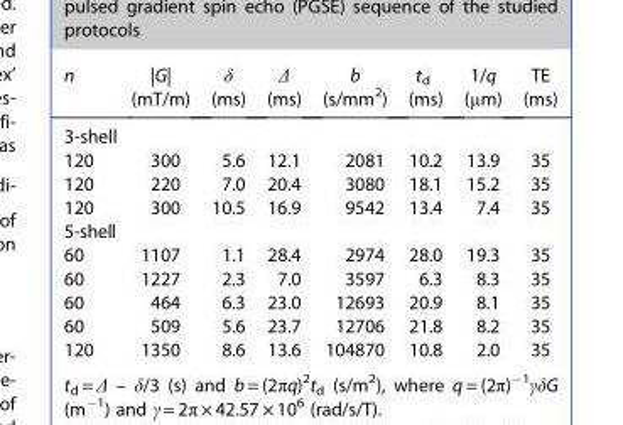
<table><thead><tr><td>n</td><td>|G| (mT/m)</td><td>δ (ms)</td><td>Δ (ms)</td><td>b (s/mm<sup>2</sup>)</td><td>t<sub>d</sub> (ms)</td><td>1/q (μm)</td><td>TE (ms)</td></tr></thead><tbody><tr><td colspan="8">3-shell</td></tr><tr><td>120</td><td>300</td><td>5.6</td><td>12.1</td><td>2081</td><td>10.2</td><td>13.9</td><td>35</td></tr><tr><td>120</td><td>220</td><td>7.0</td><td>20.4</td><td>3080</td><td>18.1</td><td>15.2</td><td>35</td></tr><tr><td>120</td><td>300</td><td>10.5</td><td>16.9</td><td>9542</td><td>13.4</td><td>7.4</td><td>35</td></tr><tr><td colspan="8">5-shell</td></tr><tr><td>60</td><td>1107</td><td>1.1</td><td>28.4</td><td>2974</td><td>28.0</td><td>19.3</td><td>35</td></tr><tr><td>60</td><td>1227</td><td>2.3</td><td>7.0</td><td>3597</td><td>6.3</td><td>8.3</td><td>35</td></tr><tr><td>60</td><td>464</td><td>6.3</td><td>23.0</td><td>12693</td><td>20.9</td><td>8.1</td><td>35</td></tr><tr><td>60</td><td>509</td><td>5.6</td><td>23.7</td><td>12706</td><td>21.8</td><td>8.2</td><td>35</td></tr><tr><td>120</td><td>1350</td><td>8.6</td><td>13.6</td><td>104870</td><td>10.8</td><td>2.0</td><td>35</td></tr></tbody></table>